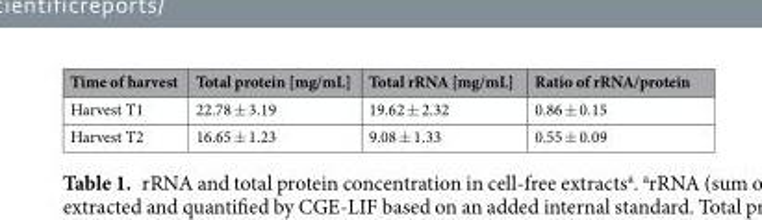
<table><thead><tr><td>Time of harvest</td><td>Total protein [mg/mL]</td><td>Total rRNA [mg/mL]</td><td>Ratio of rRNA/protein</td></tr></thead><tbody><tr><td>Harvest T1</td><td>22.78 ± 3.19</td><td>19.62 ± 2.32</td><td>0.86 ± 0.15</td></tr><tr><td>Harvest T2</td><td>16.65 ± 1.23</td><td>9.08 ± 1.33</td><td>0.55 ± 0.09</td></tr></tbody></table>